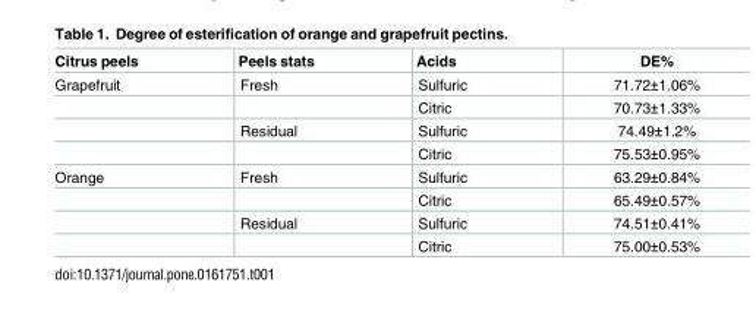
<table><thead><tr><td>Citrus peels</td><td>Peels stats</td><td>Acids</td><td>DE%</td></tr></thead><tbody><tr><td rowspan="4">Grapefruit</td><td>Fresh</td><td>Sulfuric</td><td>71.72±1.06%</td></tr><tr><td></td><td>Citric</td><td>70.73±1.33%</td></tr><tr><td>Residual</td><td>Sulfuric</td><td>74.49±1.2%</td></tr><tr><td></td><td>Citric</td><td>75.53±0.95%</td></tr><tr><td rowspan="4">Orange</td><td>Fresh</td><td>Sulfuric</td><td>63.29±0.84%</td></tr><tr><td></td><td>Citric</td><td>65.49±0.57%</td></tr><tr><td>Residual</td><td>Sulfuric</td><td>74.51±0.41%</td></tr><tr><td></td><td>Citric</td><td>75.00±0.53%</td></tr></tbody></table>